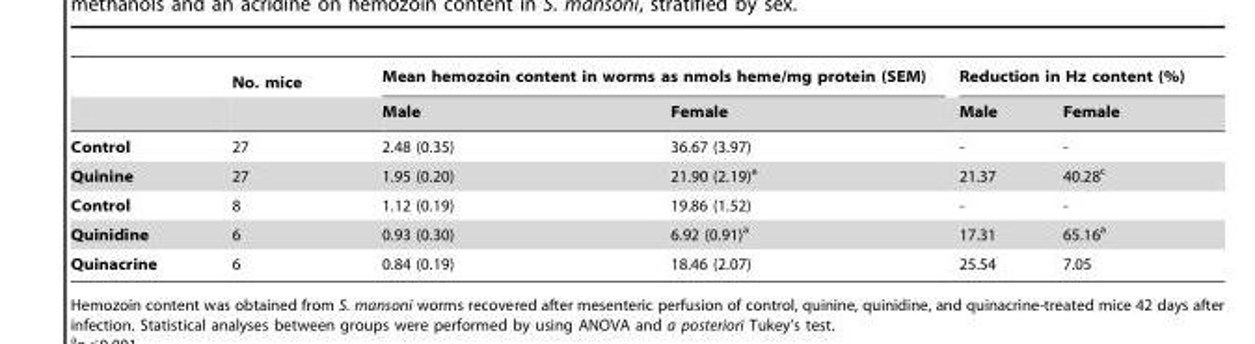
<table><thead><tr><td rowspan="2"></td><td rowspan="2">No. mice</td><td colspan="2">Mean hemozoin content in worms as nmols heme/mg protein (SEM)</td><td colspan="2">Reduction in Hz content (%)</td></tr><tr><td>Male</td><td>Female</td><td>Male</td><td>Female</td></tr></thead><tbody><tr><td>Control</td><td>27</td><td>2.48 (0.35)</td><td>36.67 (3.97)</td><td>-</td><td>-</td></tr><tr><td>Quinine</td><td>27</td><td>1.95 (0.20)</td><td>21.90 (2.19)<sup>a</sup></td><td>21.37</td><td>40.28<sup>c</sup></td></tr><tr><td>Control</td><td>8</td><td>1.12 (0.19)</td><td>19.86 (1.52)</td><td>-</td><td>-</td></tr><tr><td>Quinidine</td><td>6</td><td>0.93 (0.30)</td><td>6.92 (0.91)<sup>a</sup></td><td>17.31</td><td>65.16<sup>a</sup></td></tr><tr><td>Quinacrine</td><td>6</td><td>0.84 (0.19)</td><td>18.46 (2.07)</td><td>25.54</td><td>7.05</td></tr></tbody></table>